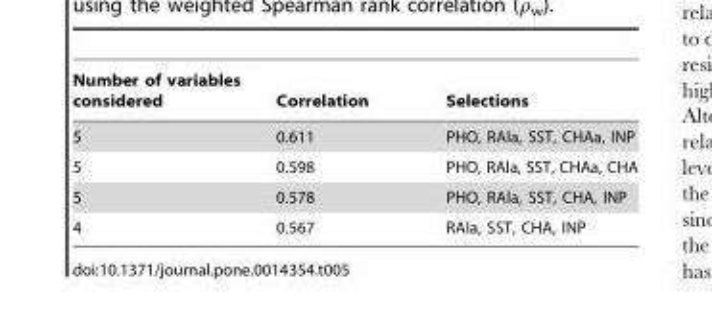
<table><thead><tr><td>Number of variables considered</td><td>Correlation</td><td>Selections</td></tr></thead><tbody><tr><td>5</td><td>0.611</td><td>PHO, RAla, SST, CHAa, INP</td></tr><tr><td>5</td><td>0.598</td><td>PHO, RAla, SST, CHAa, CHA</td></tr><tr><td>5</td><td>0.578</td><td>PHO, RAla, SST, CHA, INP</td></tr><tr><td>4</td><td>0.567</td><td>RAIa, SST, CHA, INP</td></tr></tbody></table>